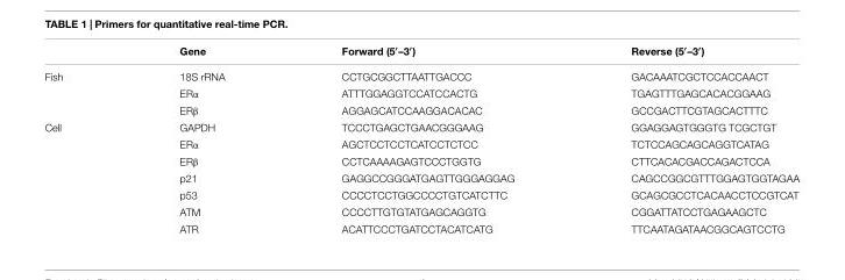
<table><thead><tr><td></td><td>Gene</td><td>Forward (5′–3′)</td><td>Reverse (5′–3′)</td></tr></thead><tbody><tr><td rowspan="3">Fish</td><td>18S rRNA</td><td>CCTGCGGCTTAATTGACCC</td><td>GACAAATCGCTCCACCAACT</td></tr><tr><td>ERα</td><td>ATTTGGAGGTCCATCCACTG</td><td>TGAGTTTGAGCACACGGAAG</td></tr><tr><td>ERβ</td><td>AGGAGCATCCAAGGACACAC</td><td>GCCGACTTCGTAGCACTTTC</td></tr><tr><td rowspan="7">Cell</td><td>GAPDH</td><td>TCCCTGAGCTGAACGGGAAG</td><td>GGAGGAGTGGGTG TCGCTGT</td></tr><tr><td>ERα</td><td>AGCTCCTCCTCATCCTCTCC</td><td>TCTCCAGCAGCAGGTCATAG</td></tr><tr><td>ERβ</td><td>CCTCAAAAGAGTCCCTGGTG</td><td>CTTCACACGACCAGACTCCA</td></tr><tr><td>p21</td><td>GAGGCCGGGATGAGTTGGGAGGAG</td><td>CAGCCGGCGTTTGGAGTGGTAGAA</td></tr><tr><td>p53</td><td>CCCCTCCTGGCCCCTGTCATCTTC</td><td>GCAGCGCCTCACAACCTCCGTCAT</td></tr><tr><td>ATM</td><td>CCCCTTGTGTATGAGCAGGTG</td><td>CGGATTATCCTGAGAAGCTC</td></tr><tr><td>ATR</td><td>ACATTCCCTGATCCTACATCATG</td><td>TTCAATAGATAACGGCAGTCCTG</td></tr></tbody></table>